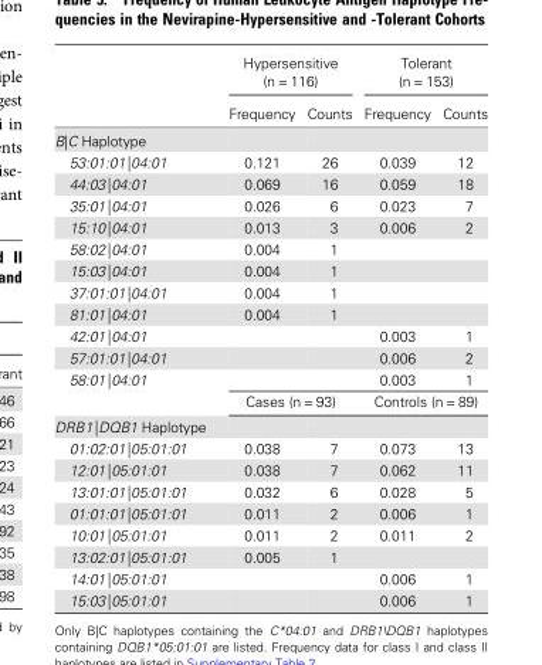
<table><thead><tr><td rowspan="2"></td><td colspan="2">Hypersensitive (n = 116)</td><td colspan="2">Tolerant (n = 153)</td></tr><tr><td>Frequency</td><td>Counts</td><td>Frequency</td><td>Counts</td></tr></thead><tbody><tr><td colspan="5">B|C Haplotype</td></tr><tr><td>53:01:01|04:01</td><td>0.121</td><td>26</td><td>0.039</td><td>12</td></tr><tr><td>44:03|04:01</td><td>0.069</td><td>16</td><td>0.059</td><td>18</td></tr><tr><td>35:01|04:01</td><td>0.026</td><td>6</td><td>0.023</td><td>7</td></tr><tr><td>15:10|04:01</td><td>0.013</td><td>3</td><td>0.006</td><td>2</td></tr><tr><td>58:02|04:01</td><td>0.004</td><td>1</td><td></td><td></td></tr><tr><td>15:03|04:01</td><td>0.004</td><td>1</td><td></td><td></td></tr><tr><td>37:01:01|04:01</td><td>0.004</td><td>1</td><td></td><td></td></tr><tr><td>81:01|04:01</td><td>0.004</td><td>1</td><td></td><td></td></tr><tr><td>42:01|04:01</td><td></td><td></td><td>0.003</td><td>1</td></tr><tr><td>57:01:01|04:01</td><td></td><td></td><td>0.006</td><td>2</td></tr><tr><td rowspan="2">58:01|04:01</td><td></td><td></td><td>0.003</td><td>1</td></tr><tr><td colspan="2">Cases (n = 93)</td><td colspan="2">Controls (n = 89)</td></tr><tr><td colspan="5">DRB1|DQB1 Haplotype</td></tr><tr><td>01:02:01|05:01:01</td><td>0.038</td><td>7</td><td>0.073</td><td>13</td></tr><tr><td>12:01|05:01:01</td><td>0.038</td><td>7</td><td>0.062</td><td>11</td></tr><tr><td>13:01:01|05:01:01</td><td>0.032</td><td>6</td><td>0.028</td><td>5</td></tr><tr><td>01:01:01|05:01:01</td><td>0.011</td><td>2</td><td>0.006</td><td>1</td></tr><tr><td>10:01|05:01:01</td><td>0.011</td><td>2</td><td>0.011</td><td>2</td></tr><tr><td>13:02:01|05:01:01</td><td>0.005</td><td>1</td><td></td><td></td></tr><tr><td>14:01|05:01:01</td><td></td><td></td><td>0.006</td><td>1</td></tr><tr><td>15:03|05:01:01</td><td></td><td></td><td>0.006</td><td>1</td></tr></tbody></table>